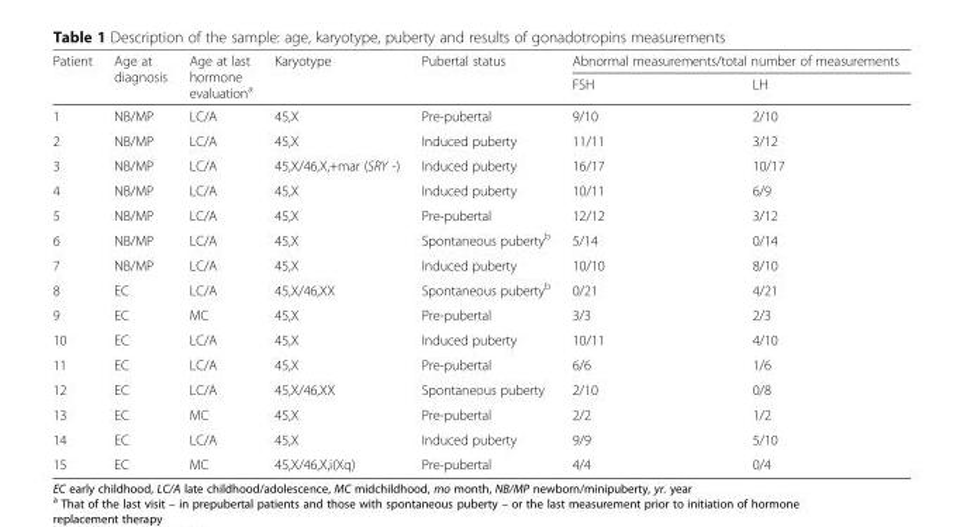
<table><thead><tr><td rowspan="2">Patient</td><td rowspan="2">Age at diagnosis</td><td rowspan="2">Age at last hormone evaluation<sup>a</sup></td><td rowspan="2">Karyotype</td><td rowspan="2">Pubertal status</td><td colspan="2">Abnormal measurements/total number of measurements</td></tr><tr><td>FSH</td><td>LH</td></tr></thead><tbody><tr><td>1</td><td>NB/MP</td><td>LC/A</td><td>45,X</td><td>Pre-pubertal</td><td>9/10</td><td>2/10</td></tr><tr><td>2</td><td>NB/MP</td><td>LC/A</td><td>45,X</td><td>Induced puberty</td><td>11/11</td><td>3/12</td></tr><tr><td>3</td><td>NB/MP</td><td>LC/A</td><td>45,X/46,X,+mar (SRY -)</td><td>Induced puberty</td><td>16/17</td><td>10/17</td></tr><tr><td>4</td><td>NB/MP</td><td>LC/A</td><td>45,X</td><td>Induced puberty</td><td>10/11</td><td>6/9</td></tr><tr><td>5</td><td>NB/MP</td><td>LC/A</td><td>45,X</td><td>Pre-pubertal</td><td>12/12</td><td>3/12</td></tr><tr><td>6</td><td>NB/MP</td><td>LC/A</td><td>45,X</td><td>Spontaneous puberty<sup>b</sup></td><td>5/14</td><td>0/14</td></tr><tr><td>7</td><td>NB/MP</td><td>LC/A</td><td>45,X</td><td>Induced puberty</td><td>10/10</td><td>8/10</td></tr><tr><td>8</td><td>EC</td><td>LC/A</td><td>45,X/46,XX</td><td>Spontaneous puberty<sup>b</sup></td><td>0/21</td><td>4/21</td></tr><tr><td>9</td><td>EC</td><td>MC</td><td>45,X</td><td>Pre-pubertal</td><td>3/3</td><td>2/3</td></tr><tr><td>10</td><td>EC</td><td>LC/A</td><td>45,X</td><td>Induced puberty</td><td>10/11</td><td>4/10</td></tr><tr><td>11</td><td>EC</td><td>LC/A</td><td>45,X</td><td>Pre-pubertal</td><td>6/6</td><td>1/6</td></tr><tr><td>12</td><td>EC</td><td>LC/A</td><td>45,X/46,XX</td><td>Spontaneous puberty</td><td>2/10</td><td>0/8</td></tr><tr><td>13</td><td>EC</td><td>MC</td><td>45,X</td><td>Pre-pubertal</td><td>2/2</td><td>1/2</td></tr><tr><td>14</td><td>EC</td><td>LC/A</td><td>45,X</td><td>Induced puberty</td><td>9/9</td><td>5/10</td></tr><tr><td>15</td><td>EC</td><td>MC</td><td>45,X/46,X,i(Xq)</td><td>Pre-pubertal</td><td>4/4</td><td>0/4</td></tr></tbody></table>